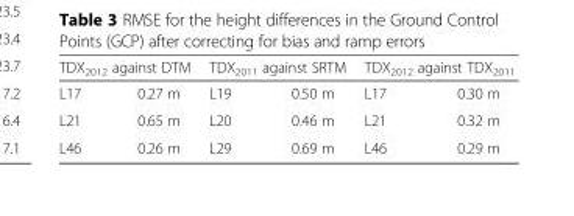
<table><thead><tr><td colspan="2">TDX<sub>2012</sub> against DTM</td><td colspan="2">TDX<sub>2011</sub> against SRTM</td><td colspan="2">TDX<sub>2012</sub> against TDX<sub>2011</sub></td></tr><tr><td>L17</td><td>0.27 m</td><td>L19</td><td>0.50 m</td><td>L17</td><td>0.30 m</td></tr></thead><tbody><tr><td>L21</td><td>0.65 m</td><td>L20</td><td>0.46 m</td><td>L21</td><td>0.32 m</td></tr><tr><td>L46</td><td>0.26 m</td><td>L29</td><td>0.69 m</td><td>L46</td><td>0.29 m</td></tr></tbody></table>